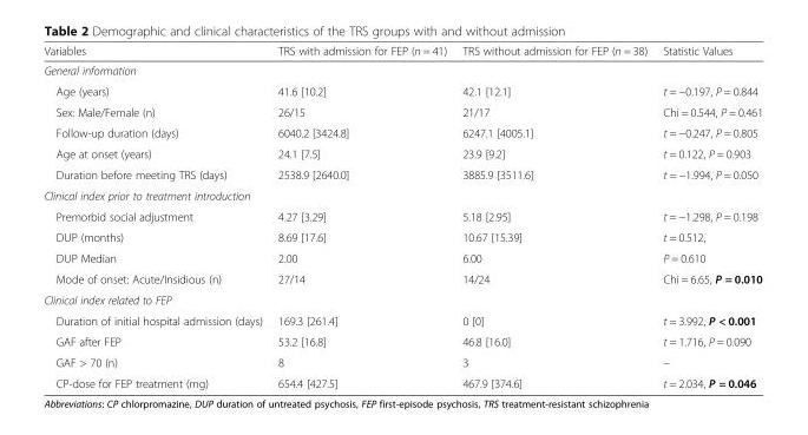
<table><thead><tr><td>Variables</td><td>TRS with admission for FEP (n = 41)</td><td>TRS without admission for FEP (n = 38)</td><td>Statistic Values</td></tr></thead><tbody><tr><td colspan="4">General information</td></tr><tr><td>Age (years)</td><td>41.6 [10.2]</td><td>42.1 [12.1]</td><td>t = −0.197, P = 0.844</td></tr><tr><td>Sex: Male/Female (n)</td><td>26/15</td><td>21/17</td><td>Chi = 0.544, P = 0.461</td></tr><tr><td>Follow-up duration (days)</td><td>6040.2 [3424.8]</td><td>6247.1 [4005.1]</td><td>t = −0.247, P = 0.805</td></tr><tr><td>Age at onset (years)</td><td>24.1 [7.5]</td><td>23.9 [9.2]</td><td>t = 0.122, P = 0.903</td></tr><tr><td>Duration before meeting TRS (days)</td><td>2538.9 [2640.0]</td><td>3885.9 [3511.6]</td><td>t = −1.994, P = 0.050</td></tr><tr><td colspan="4">Clinical index prior to treatment introduction</td></tr><tr><td>Premorbid social adjustment</td><td>4.27 [3.29]</td><td>5.18 [2.95]</td><td>t = −1.298, P = 0.198</td></tr><tr><td>DUP (months)</td><td>8.69 [17.6]</td><td>10.67 [15.39]</td><td>t = 0.512,</td></tr><tr><td>DUP Median</td><td>2.00</td><td>6.00</td><td>P = 0.610</td></tr><tr><td>Mode of onset: Acute/Insidious (n)</td><td>27/14</td><td>14/24</td><td>Chi = 6.65, P = 0.010</td></tr><tr><td colspan="4">Clinical index related to FEP</td></tr><tr><td>Duration of initial hospital admission (days)</td><td>169.3 [261.4]</td><td>0 [0]</td><td>t = 3.992, P &lt; 0.001</td></tr><tr><td>GAF after FEP</td><td>53.2 [16.8]</td><td>46.8 [16.0]</td><td>t = 1.716, P = 0.090</td></tr><tr><td>GAF &gt; 70 (n)</td><td>8</td><td>3</td><td>–</td></tr><tr><td>CP-dose for FEP treatment (mg)</td><td>654.4 [427.5]</td><td>467.9 [374.6]</td><td>t = 2.034, P = 0.046</td></tr></tbody></table>